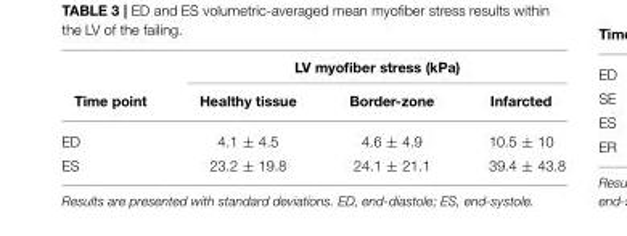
<table><thead><tr><td rowspan="2">Time point</td><td colspan="3">LV myofiber stress (kPa)</td></tr><tr><td>Healthy tissue</td><td>Border-zone</td><td>Infarcted</td></tr></thead><tbody><tr><td>ED</td><td>4.1 ± 4.5</td><td>4.6 ± 4.9</td><td>10.5 ± 10</td></tr><tr><td>ES</td><td>23.2 ± 19.8</td><td>24.1 ± 21.1</td><td>39.4 ± 43.8</td></tr></tbody></table>